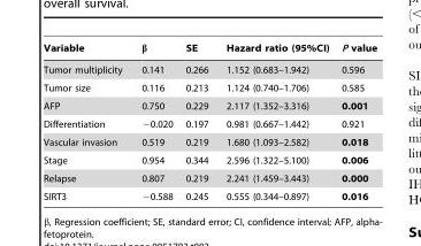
<table><thead><tr><td>Variable</td><td>β</td><td>SE</td><td>Hazard ratio (95%CI)</td><td>P value</td></tr></thead><tbody><tr><td>Tumor multiplicity</td><td>0.141</td><td>0.266</td><td>1.152 (0.683–1.942)</td><td>0.596</td></tr><tr><td>Tumor size</td><td>0.116</td><td>0.213</td><td>1.124 (0.740–1.706)</td><td>0.585</td></tr><tr><td>AFP</td><td>0.750</td><td>0.229</td><td>2.117 (1.352–3.316)</td><td>0.001</td></tr><tr><td>Differentiation</td><td>−0.020</td><td>0.197</td><td>0.981 (0.667–1.442)</td><td>0.921</td></tr><tr><td>Vascular invasion</td><td>0.519</td><td>0.219</td><td>1.680 (1.093–2.582)</td><td>0.018</td></tr><tr><td>Stage</td><td>0.954</td><td>0.344</td><td>2.596 (1.322–5.100)</td><td>0.006</td></tr><tr><td>Relapse</td><td>0.807</td><td>0.219</td><td>2.241 (1.459–3.443)</td><td>0.000</td></tr><tr><td>SIRT3</td><td>−0.588</td><td>0.245</td><td>0.555 (0.344–0.897)</td><td>0.016</td></tr></tbody></table>